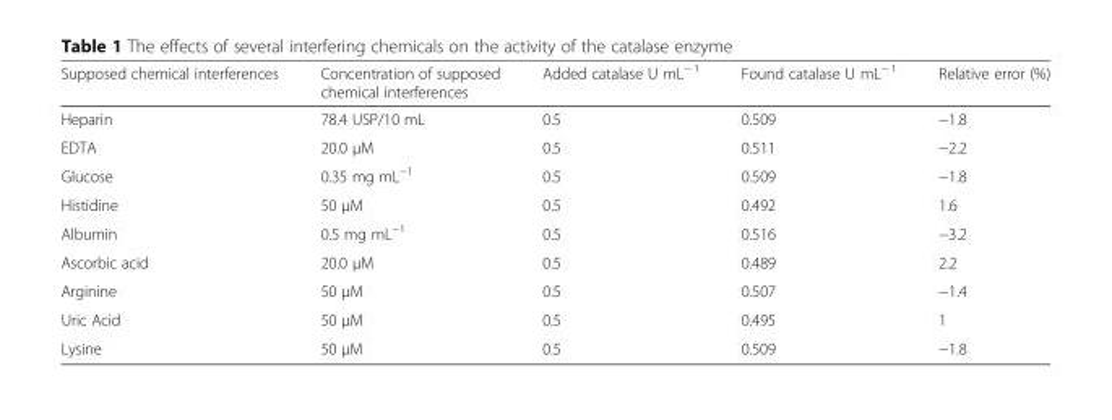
<table><thead><tr><td>Supposed chemical interferences</td><td>Concentration of supposed chemical interferences</td><td>Added catalase U mL<sup>− 1</sup></td><td>Found catalase U mL<sup>− 1</sup></td><td>Relative error (%)</td></tr></thead><tbody><tr><td>Heparin</td><td>78.4 USP/10 mL</td><td>0.5</td><td>0.509</td><td>−1.8</td></tr><tr><td>EDTA</td><td>20.0 μM</td><td>0.5</td><td>0.511</td><td>−2.2</td></tr><tr><td>Glucose</td><td>0.35 mg mL<sup>−1</sup></td><td>0.5</td><td>0.509</td><td>−1.8</td></tr><tr><td>Histidine</td><td>50 μM</td><td>0.5</td><td>0.492</td><td>1.6</td></tr><tr><td>Albumin</td><td>0.5 mg mL<sup>−1</sup></td><td>0.5</td><td>0.516</td><td>−3.2</td></tr><tr><td>Ascorbic acid</td><td>20.0 μM</td><td>0.5</td><td>0.489</td><td>2.2</td></tr><tr><td>Arginine</td><td>50 μM</td><td>0.5</td><td>0.507</td><td>−1.4</td></tr><tr><td>Uric Acid</td><td>50 μM</td><td>0.5</td><td>0.495</td><td>1</td></tr><tr><td>Lysine</td><td>50 μM</td><td>0.5</td><td>0.509</td><td>−1.8</td></tr></tbody></table>